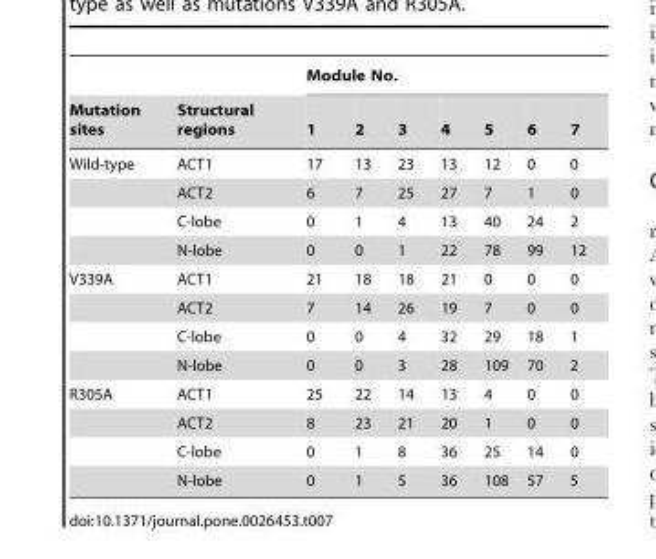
<table><thead><tr><td rowspan="2">Mutation sites</td><td rowspan="2">Structural regions</td><td colspan="7">Module No.</td></tr><tr><td>1</td><td>2</td><td>3</td><td>4</td><td>5</td><td>6</td><td>7</td></tr></thead><tbody><tr><td rowspan="4">Wild-type</td><td>ACT1</td><td>17</td><td>13</td><td>23</td><td>13</td><td>12</td><td>0</td><td>0</td></tr><tr><td>ACT2</td><td>6</td><td>7</td><td>25</td><td>27</td><td>7</td><td>1</td><td>0</td></tr><tr><td>C-lobe</td><td>0</td><td>1</td><td>4</td><td>13</td><td>40</td><td>24</td><td>2</td></tr><tr><td>N-lobe</td><td>0</td><td>0</td><td>1</td><td>22</td><td>78</td><td>99</td><td>12</td></tr><tr><td rowspan="4">V339A</td><td>ACT1</td><td>21</td><td>18</td><td>18</td><td>21</td><td>0</td><td>0</td><td>0</td></tr><tr><td>ACT2</td><td>7</td><td>14</td><td>26</td><td>19</td><td>7</td><td>0</td><td>0</td></tr><tr><td>C-lobe</td><td>0</td><td>0</td><td>4</td><td>32</td><td>29</td><td>18</td><td>1</td></tr><tr><td>N-lobe</td><td>0</td><td>0</td><td>3</td><td>28</td><td>109</td><td>70</td><td>2</td></tr><tr><td rowspan="4">R305A</td><td>ACT1</td><td>25</td><td>22</td><td>14</td><td>13</td><td>4</td><td>0</td><td>0</td></tr><tr><td>ACT2</td><td>8</td><td>23</td><td>21</td><td>20</td><td>1</td><td>0</td><td>0</td></tr><tr><td>C-lobe</td><td>0</td><td>1</td><td>8</td><td>36</td><td>25</td><td>14</td><td>0</td></tr><tr><td>N-lobe</td><td>0</td><td>1</td><td>5</td><td>36</td><td>108</td><td>57</td><td>5</td></tr></tbody></table>